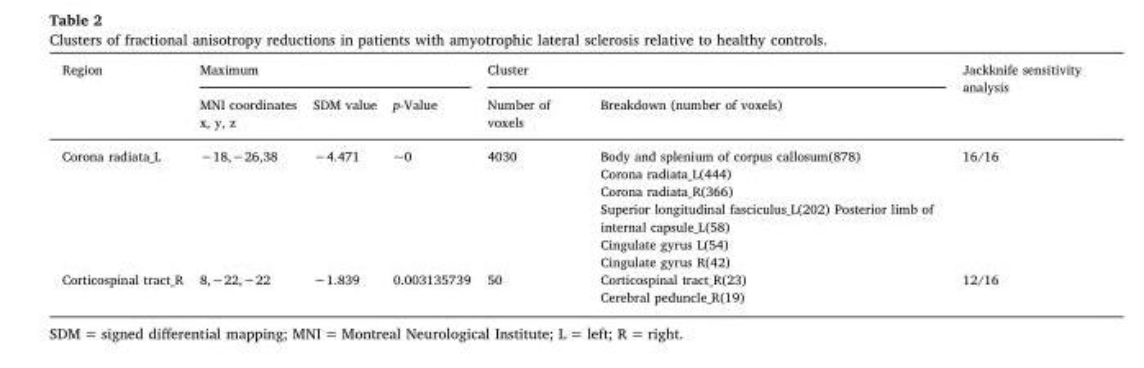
<table><thead><tr><td rowspan="2">Region</td><td colspan="3">Maximum</td><td colspan="2">Cluster</td><td rowspan="2">Jackknife sensitivity analysis</td></tr><tr><td>MNI coordinates x, y, z</td><td>SDM value</td><td>p-Value</td><td>Number of voxels</td><td>Breakdown (number of voxels)</td></tr></thead><tbody><tr><td>Corona radiata_L</td><td>−18,−26,38</td><td>−4.471</td><td>~0</td><td>4030</td><td>Body and splenium of corpus callosum(878) Corona radiata_L(444) Corona radiata_R(366) Superior longitudinal fasciculus_L(202) Posterior limb of internal capsule_L(58) Cingulate gyrus L(54) Cingulate gyrus R(42)</td><td>16/16</td></tr><tr><td>Corticospinal tract_R</td><td>8,−22,−22</td><td>−1.839</td><td>0.003135739</td><td>50</td><td>Corticospinal tract_R(23) Cerebral peduncle_R(19)</td><td>12/16</td></tr></tbody></table>